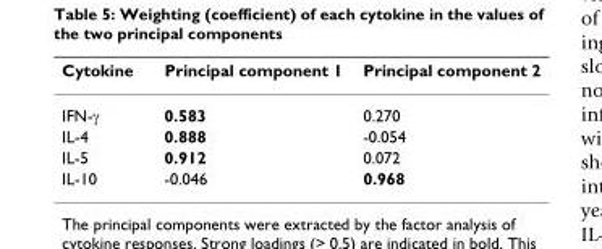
<table><thead><tr><td>Cytokine</td><td>Principal component 1</td><td>Principal component 2</td></tr></thead><tbody><tr><td>IFN-γ</td><td>0.583</td><td>0.270</td></tr><tr><td>IL-4</td><td>0.888</td><td>-0.054</td></tr><tr><td>IL-5</td><td>0.912</td><td>0.072</td></tr><tr><td>IL-10</td><td>-0.046</td><td>0.968</td></tr></tbody></table>